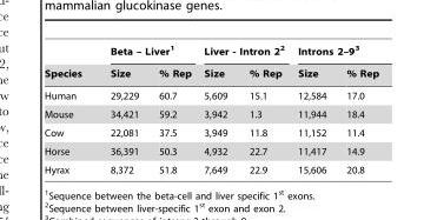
<table><thead><tr><td rowspan="2">Species</td><td colspan="2">Beta – Liver<sup>1</sup></td><td colspan="2">Liver - Intron 2<sup>2</sup></td><td colspan="2">Introns 2–9<sup>3</sup></td></tr><tr><td>Size</td><td>% Rep</td><td>Size</td><td>% Rep</td><td>Size</td><td>% Rep</td></tr></thead><tbody><tr><td>Human</td><td>29,229</td><td>60.7</td><td>5,609</td><td>15.1</td><td>12,584</td><td>17.0</td></tr><tr><td>Mouse</td><td>34,421</td><td>59.2</td><td>3,942</td><td>1.3</td><td>11,944</td><td>18.4</td></tr><tr><td>Cow</td><td>22,081</td><td>37.5</td><td>3,949</td><td>11.8</td><td>11,152</td><td>11.4</td></tr><tr><td>Horse</td><td>36,391</td><td>50.3</td><td>4,932</td><td>22.7</td><td>11,417</td><td>14.9</td></tr><tr><td>Hyrax</td><td>8,372</td><td>51.8</td><td>7,649</td><td>22.9</td><td>15,606</td><td>20.8</td></tr></tbody></table>